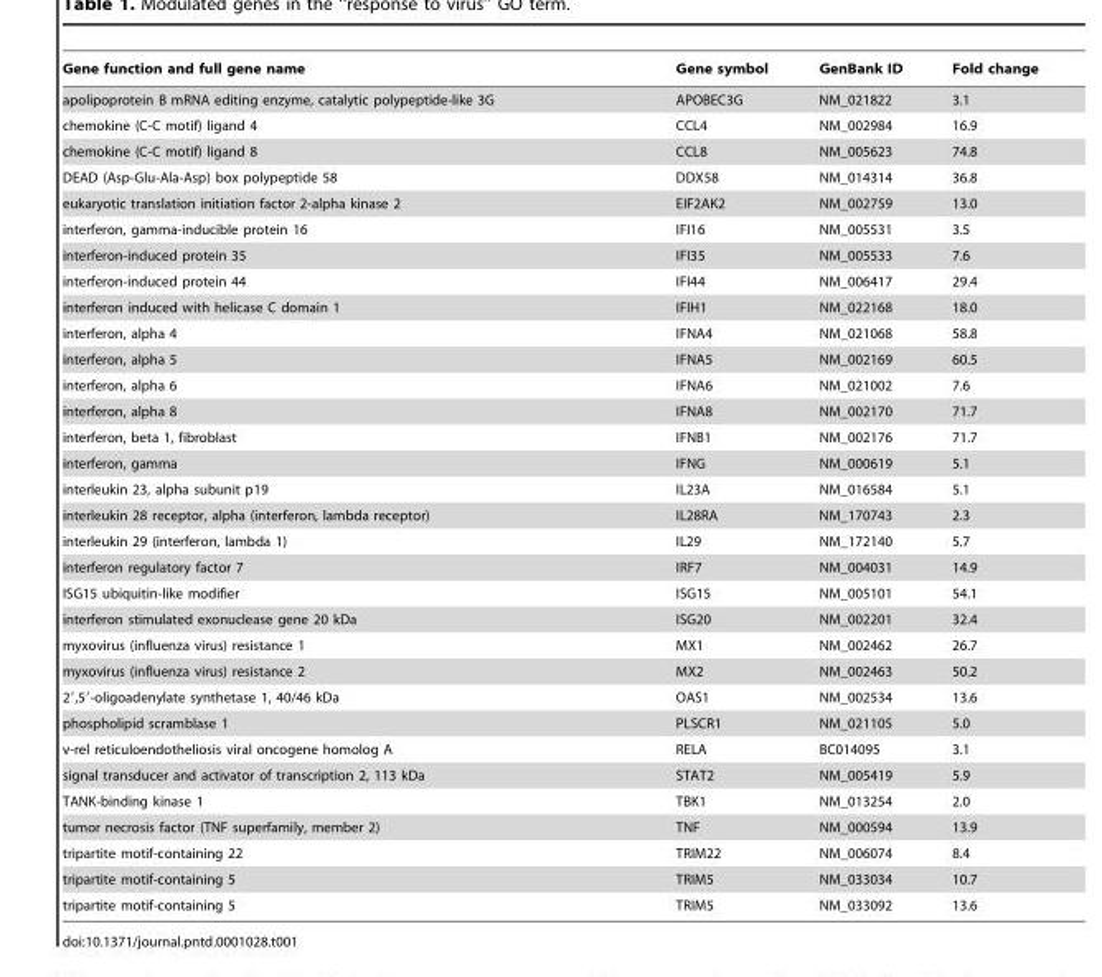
<table><thead><tr><td>Gene function and full gene name</td><td>Gene symbol</td><td>GenBank ID</td><td>Fold change</td></tr></thead><tbody><tr><td>apolipoprotein B mRNA editing enzyme, catalytic polypeptide-like 3G</td><td>APOBEC3G</td><td>NM_021822</td><td>3.1</td></tr><tr><td>chemokine (C-C motif) ligand 4</td><td>CCL4</td><td>NM_002984</td><td>16.9</td></tr><tr><td>chemokine (C-C motif) ligand 8</td><td>CCL8</td><td>NM_005623</td><td>74.8</td></tr><tr><td>DEAD (Asp-Glu-Ala-Asp) box polypeptide 58</td><td>DDX58</td><td>NM_014314</td><td>36.8</td></tr><tr><td>eukaryotic translation initiation factor 2-alpha kinase 2</td><td>EIF2AK2</td><td>NM_002759</td><td>13.0</td></tr><tr><td>interferon, gamma-inducible protein 16</td><td>IFI16</td><td>NM_005531</td><td>3.5</td></tr><tr><td>interferon-induced protein 35</td><td>IFI35</td><td>NM_005533</td><td>7.6</td></tr><tr><td>interferon-induced protein 44</td><td>IFI44</td><td>NM_006417</td><td>29.4</td></tr><tr><td>interferon induced with helicase C domain 1</td><td>IFIH1</td><td>NM_022168</td><td>18.0</td></tr><tr><td>interferon, alpha 4</td><td>IFNA4</td><td>NM_021068</td><td>58.8</td></tr><tr><td>interferon, alpha 5</td><td>IFNA5</td><td>NM_002169</td><td>60.5</td></tr><tr><td>interferon, alpha 6</td><td>IFNA6</td><td>NM_021002</td><td>7.6</td></tr><tr><td>interferon, alpha 8</td><td>IFNA8</td><td>NM_002170</td><td>71.7</td></tr><tr><td>interferon, beta 1, fibroblast</td><td>IFNB1</td><td>NM_002176</td><td>71.7</td></tr><tr><td>interferon, gamma</td><td>IFNG</td><td>NM_000619</td><td>5.1</td></tr><tr><td>interleukin 23, alpha subunit p19</td><td>IL23A</td><td>NM_016584</td><td>5.1</td></tr><tr><td>interleukin 28 receptor, alpha (interferon, lambda receptor)</td><td>IL28RA</td><td>NM_170743</td><td>2.3</td></tr><tr><td>interleukin 29 (interferon, lambda 1)</td><td>IL29</td><td>NM_172140</td><td>5.7</td></tr><tr><td>interferon regulatory factor 7</td><td>IRF7</td><td>NM_004031</td><td>14.9</td></tr><tr><td>ISG15 ubiquitin-like modifier</td><td>ISG15</td><td>NM_005101</td><td>54.1</td></tr><tr><td>interferon stimulated exonuclease gene 20 kDa</td><td>ISG20</td><td>NM_002201</td><td>32.4</td></tr><tr><td>myxovirus (influenza virus) resistance 1</td><td>MX1</td><td>NM_002462</td><td>26.7</td></tr><tr><td>myxovirus (influenza virus) resistance 2</td><td>MX2</td><td>NM_002463</td><td>50.2</td></tr><tr><td>2′,5′-oligoadenylate synthetase 1, 40/46 kDa</td><td>OAS1</td><td>NM_002534</td><td>13.6</td></tr><tr><td>phospholipid scramblase 1</td><td>PLSCR1</td><td>NM_021105</td><td>5.0</td></tr><tr><td>v-rel reticuloendotheliosis viral oncogene homolog A</td><td>RELA</td><td>BC014095</td><td>3.1</td></tr><tr><td>signal transducer and activator of transcription 2, 113 kDa</td><td>STAT2</td><td>NM_005419</td><td>5.9</td></tr><tr><td>TANK-binding kinase 1</td><td>TBK1</td><td>NM_013254</td><td>2.0</td></tr><tr><td>tumor necrosis factor (TNF superfamily, member 2)</td><td>TNF</td><td>NM_000594</td><td>13.9</td></tr><tr><td>tripartite motif-containing 22</td><td>TRIM22</td><td>NM_006074</td><td>8.4</td></tr><tr><td>tripartite motif-containing 5</td><td>TRIM5</td><td>NM_033034</td><td>10.7</td></tr><tr><td>tripartite motif-containing 5</td><td>TRIM5</td><td>NM_033092</td><td>13.6</td></tr></tbody></table>